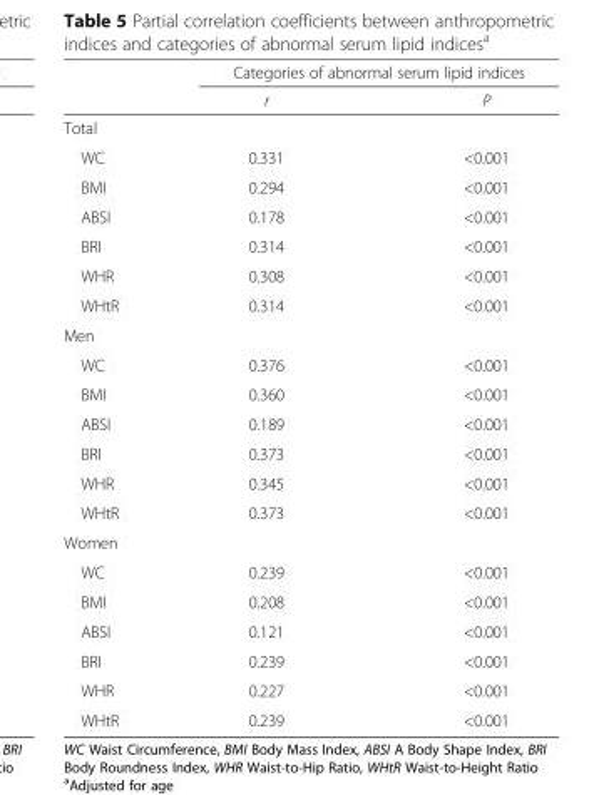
<table><thead><tr><td rowspan="2"></td><td colspan="2">Categories of abnormal serum lipid indices</td></tr><tr><td>r</td><td>P</td></tr></thead><tbody><tr><td colspan="3">Total</td></tr><tr><td>WC</td><td>0.331</td><td>&lt;0.001</td></tr><tr><td>BMI</td><td>0.294</td><td>&lt;0.001</td></tr><tr><td>ABSI</td><td>0.178</td><td>&lt;0.001</td></tr><tr><td>BRI</td><td>0.314</td><td>&lt;0.001</td></tr><tr><td>WHR</td><td>0.308</td><td>&lt;0.001</td></tr><tr><td>WHtR</td><td>0.314</td><td>&lt;0.001</td></tr><tr><td colspan="3">Men</td></tr><tr><td>WC</td><td>0.376</td><td>&lt;0.001</td></tr><tr><td>BMI</td><td>0.360</td><td>&lt;0.001</td></tr><tr><td>ABSI</td><td>0.189</td><td>&lt;0.001</td></tr><tr><td>BRI</td><td>0.373</td><td>&lt;0.001</td></tr><tr><td>WHR</td><td>0.345</td><td>&lt;0.001</td></tr><tr><td>WHtR</td><td>0.373</td><td>&lt;0.001</td></tr><tr><td colspan="3">Women</td></tr><tr><td>WC</td><td>0.239</td><td>&lt;0.001</td></tr><tr><td>BMI</td><td>0.208</td><td>&lt;0.001</td></tr><tr><td>ABSI</td><td>0.121</td><td>&lt;0.001</td></tr><tr><td>BRI</td><td>0.239</td><td>&lt;0.001</td></tr><tr><td>WHR</td><td>0.227</td><td>&lt;0.001</td></tr><tr><td>WHtR</td><td>0.239</td><td>&lt;0.001</td></tr></tbody></table>